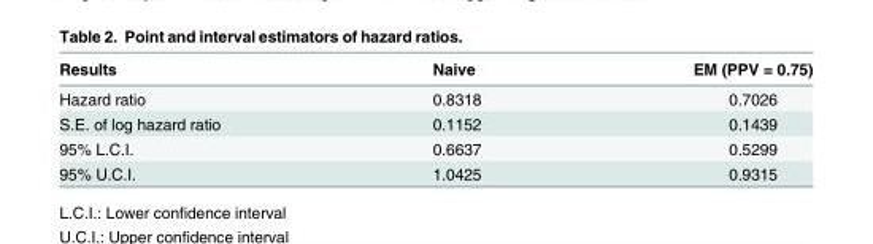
<table><thead><tr><td>Results</td><td>Naive</td><td>EM (PPV = 0.75)</td></tr></thead><tbody><tr><td>Hazard ratio</td><td>0.8318</td><td>0.7026</td></tr><tr><td>S.E. of log hazard ratio</td><td>0.1152</td><td>0.1439</td></tr><tr><td>95% L.C.I.</td><td>0.6637</td><td>0.5299</td></tr><tr><td>95% U.C.I.</td><td>1.0425</td><td>0.9315</td></tr></tbody></table>